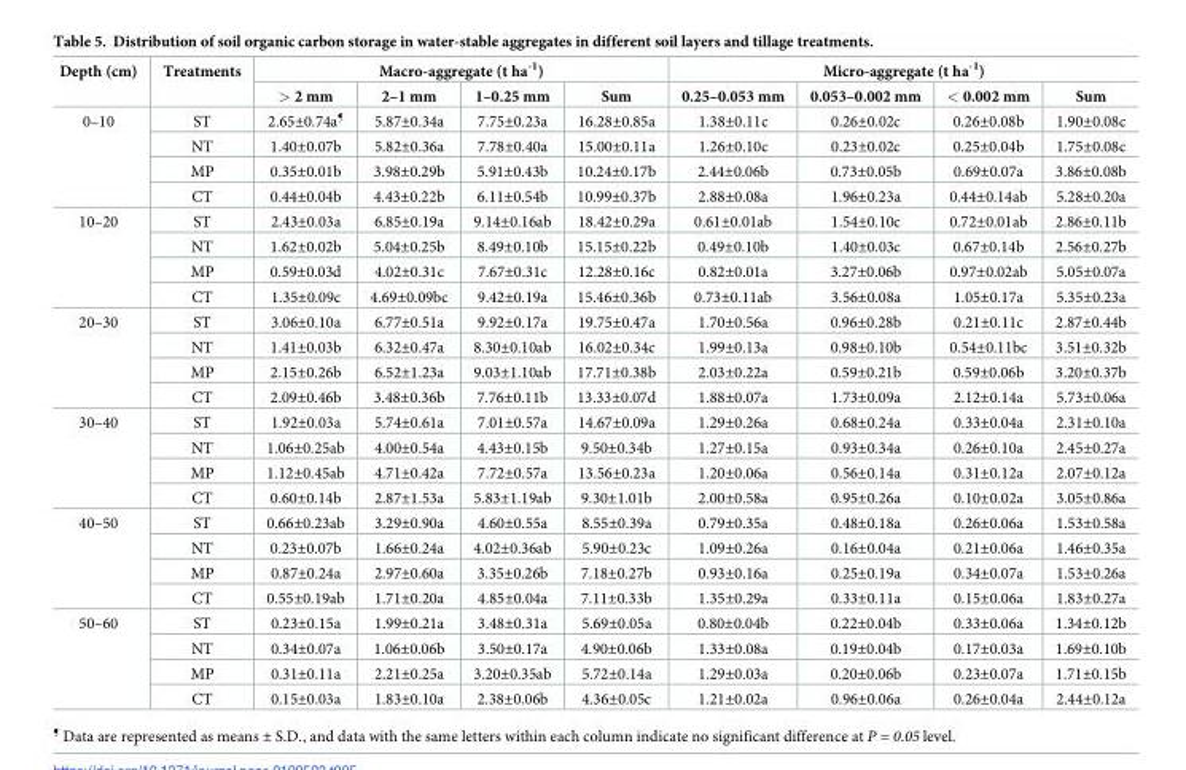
<table><thead><tr><td rowspan="2">Depth (cm)</td><td rowspan="2">Treatments</td><td colspan="4">Macro-aggregate (t ha<sup>-1</sup>)</td><td colspan="4">Micro-aggregate (t ha<sup>-1</sup>)</td></tr><tr><td>&gt; 2 mm</td><td>2–1 mm</td><td>1–0.25 mm</td><td>Sum</td><td>0.25–0.053 mm</td><td>0.053–0.002 mm</td><td>&lt; 0.002 mm</td><td>Sum</td></tr></thead><tbody><tr><td rowspan="4">0–10</td><td>ST</td><td>2.65±0.74a<sup>¶</sup></td><td>5.87±0.34a</td><td>7.75±0.23a</td><td>16.28±0.85a</td><td>1.38±0.11c</td><td>0.26±0.02c</td><td>0.26±0.08b</td><td>1.90±0.08c</td></tr><tr><td>NT</td><td>1.40±0.07b</td><td>5.82±0.36a</td><td>7.78±0.40a</td><td>15.00±0.11a</td><td>1.26±0.10c</td><td>0.23±0.02c</td><td>0.25±0.04b</td><td>1.75±0.08c</td></tr><tr><td>MP</td><td>0.35±0.01b</td><td>3.98±0.29b</td><td>5.91±0.43b</td><td>10.24±0.17b</td><td>2.44±0.06b</td><td>0.73±0.05b</td><td>0.69±0.07a</td><td>3.86±0.08b</td></tr><tr><td>CT</td><td>0.44±0.04b</td><td>4.43±0.22b</td><td>6.11±0.54b</td><td>10.99±0.37b</td><td>2.88±0.08a</td><td>1.96±0.23a</td><td>0.44±0.14ab</td><td>5.28±0.20a</td></tr><tr><td rowspan="4">10–20</td><td>ST</td><td>2.43±0.03a</td><td>6.85±0.19a</td><td>9.14±0.16ab</td><td>18.42±0.29a</td><td>0.61±0.01ab</td><td>1.54±0.10c</td><td>0.72±0.01ab</td><td>2.86±0.11b</td></tr><tr><td>NT</td><td>1.62±0.02b</td><td>5.04±0.25b</td><td>8.49±0.10b</td><td>15.15±0.22b</td><td>0.49±0.10b</td><td>1.40±0.03c</td><td>0.67±0.14b</td><td>2.56±0.27b</td></tr><tr><td>MP</td><td>0.59±0.03d</td><td>4.02±0.31c</td><td>7.67±0.31c</td><td>12.28±0.16c</td><td>0.82±0.01a</td><td>3.27±0.06b</td><td>0.97±0.02ab</td><td>5.05±0.07a</td></tr><tr><td>CT</td><td>1.35±0.09c</td><td>4.69±0.09bc</td><td>9.42±0.19a</td><td>15.46±0.36b</td><td>0.73±0.11ab</td><td>3.56±0.08a</td><td>1.05±0.17a</td><td>5.35±0.23a</td></tr><tr><td rowspan="4">20–30</td><td>ST</td><td>3.06±0.10a</td><td>6.77±0.51a</td><td>9.92±0.17a</td><td>19.75±0.47a</td><td>1.70±0.56a</td><td>0.96±0.28b</td><td>0.21±0.11c</td><td>2.87±0.44b</td></tr><tr><td>NT</td><td>1.41±0.03b</td><td>6.32±0.47a</td><td>8.30±0.10ab</td><td>16.02±0.34c</td><td>1.99±0.13a</td><td>0.98±0.10b</td><td>0.54±0.11bc</td><td>3.51±0.32b</td></tr><tr><td>MP</td><td>2.15±0.26b</td><td>6.52±1.23a</td><td>9.03±1.10ab</td><td>17.71±0.38b</td><td>2.03±0.22a</td><td>0.59±0.21b</td><td>0.59±0.06b</td><td>3.20±0.37b</td></tr><tr><td>CT</td><td>2.09±0.46b</td><td>3.48±0.36b</td><td>7.76±0.11b</td><td>13.33±0.07d</td><td>1.88±0.07a</td><td>1.73±0.09a</td><td>2.12±0.14a</td><td>5.73±0.06a</td></tr><tr><td rowspan="4">30–40</td><td>ST</td><td>1.92±0.03a</td><td>5.74±0.61a</td><td>7.01±0.57a</td><td>14.67±0.09a</td><td>1.29±0.26a</td><td>0.68±0.24a</td><td>0.33±0.04a</td><td>2.31±0.10a</td></tr><tr><td>NT</td><td>1.06±0.25ab</td><td>4.00±0.54a</td><td>4.43±0.15b</td><td>9.50±0.34b</td><td>1.27±0.15a</td><td>0.93±0.34a</td><td>0.26±0.10a</td><td>2.45±0.27a</td></tr><tr><td>MP</td><td>1.12±0.45ab</td><td>4.71±0.42a</td><td>7.72±0.57a</td><td>13.56±0.23a</td><td>1.20±0.06a</td><td>0.56±0.14a</td><td>0.31±0.12a</td><td>2.07±0.12a</td></tr><tr><td>CT</td><td>0.60±0.14b</td><td>2.87±1.53a</td><td>5.83±1.19ab</td><td>9.30±1.01b</td><td>2.00±0.58a</td><td>0.95±0.26a</td><td>0.10±0.02a</td><td>3.05±0.86a</td></tr><tr><td rowspan="4">40–50</td><td>ST</td><td>0.66±0.23ab</td><td>3.29±0.90a</td><td>4.60±0.55a</td><td>8.55±0.39a</td><td>0.79±0.35a</td><td>0.48±0.18a</td><td>0.26±0.06a</td><td>1.53±0.58a</td></tr><tr><td>NT</td><td>0.23±0.07b</td><td>1.66±0.24a</td><td>4.02±0.36ab</td><td>5.90±0.23c</td><td>1.09±0.26a</td><td>0.16±0.04a</td><td>0.21±0.06a</td><td>1.46±0.35a</td></tr><tr><td>MP</td><td>0.87±0.24a</td><td>2.97±0.60a</td><td>3.35±0.26b</td><td>7.18±0.27b</td><td>0.93±0.16a</td><td>0.25±0.19a</td><td>0.34±0.07a</td><td>1.53±0.26a</td></tr><tr><td>CT</td><td>0.55±0.19ab</td><td>1.71±0.20a</td><td>4.85±0.04a</td><td>7.11±0.33b</td><td>1.35±0.29a</td><td>0.33±0.11a</td><td>0.15±0.06a</td><td>1.83±0.27a</td></tr><tr><td rowspan="4">50–60</td><td>ST</td><td>0.23±0.15a</td><td>1.99±0.21a</td><td>3.48±0.31a</td><td>5.69±0.05a</td><td>0.80±0.04b</td><td>0.22±0.04b</td><td>0.33±0.06a</td><td>1.34±0.12b</td></tr><tr><td>NT</td><td>0.34±0.07a</td><td>1.06±0.06b</td><td>3.50±0.17a</td><td>4.90±0.06b</td><td>1.33±0.08a</td><td>0.19±0.04b</td><td>0.17±0.03a</td><td>1.69±0.10b</td></tr><tr><td>MP</td><td>0.31±0.11a</td><td>2.21±0.25a</td><td>3.20±0.35ab</td><td>5.72±0.14a</td><td>1.29±0.03a</td><td>0.20±0.06b</td><td>0.23±0.07a</td><td>1.71±0.15b</td></tr><tr><td>CT</td><td>0.15±0.03a</td><td>1.83±0.10a</td><td>2.38±0.06b</td><td>4.36±0.05c</td><td>1.21±0.02a</td><td>0.96±0.06a</td><td>0.26±0.04a</td><td>2.44±0.12a</td></tr></tbody></table>